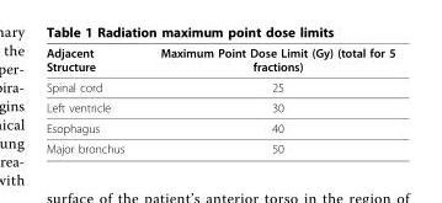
<table><thead><tr><td>Adjacent Structure</td><td>Maximum Point Dose Limit (Gy) (total for 5 fractions)</td></tr></thead><tbody><tr><td>Spinal cord</td><td>25</td></tr><tr><td>Left ventricle</td><td>30</td></tr><tr><td>Esophagus</td><td>40</td></tr><tr><td>Major bronchus</td><td>50</td></tr></tbody></table>